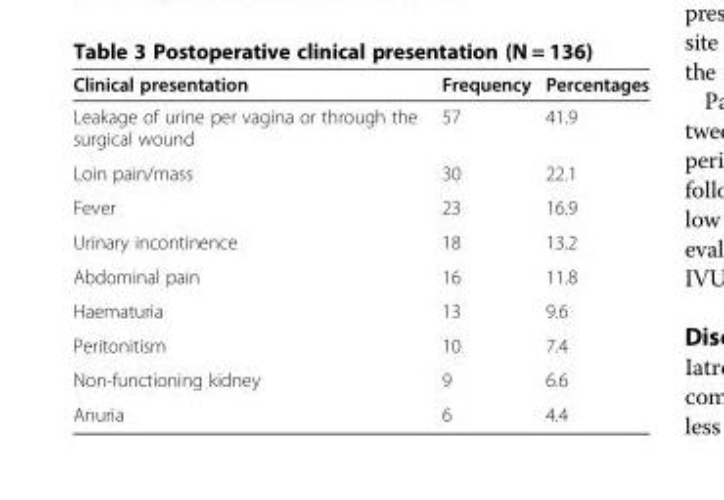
<table><thead><tr><td>Clinical presentation</td><td>Frequency</td><td>Percentages</td></tr></thead><tbody><tr><td>Leakage of urine per vagina or through the surgical wound</td><td>57</td><td>41.9</td></tr><tr><td>Loin pain/mass</td><td>30</td><td>22.1</td></tr><tr><td>Fever</td><td>23</td><td>16.9</td></tr><tr><td>Urinary incontinence</td><td>18</td><td>13.2</td></tr><tr><td>Abdominal pain</td><td>16</td><td>11.8</td></tr><tr><td>Haematuria</td><td>13</td><td>9.6</td></tr><tr><td>Peritonitism</td><td>10</td><td>7.4</td></tr><tr><td>Non-functioning kidney</td><td>9</td><td>6.6</td></tr><tr><td>Anuria</td><td>6</td><td>4.4</td></tr></tbody></table>